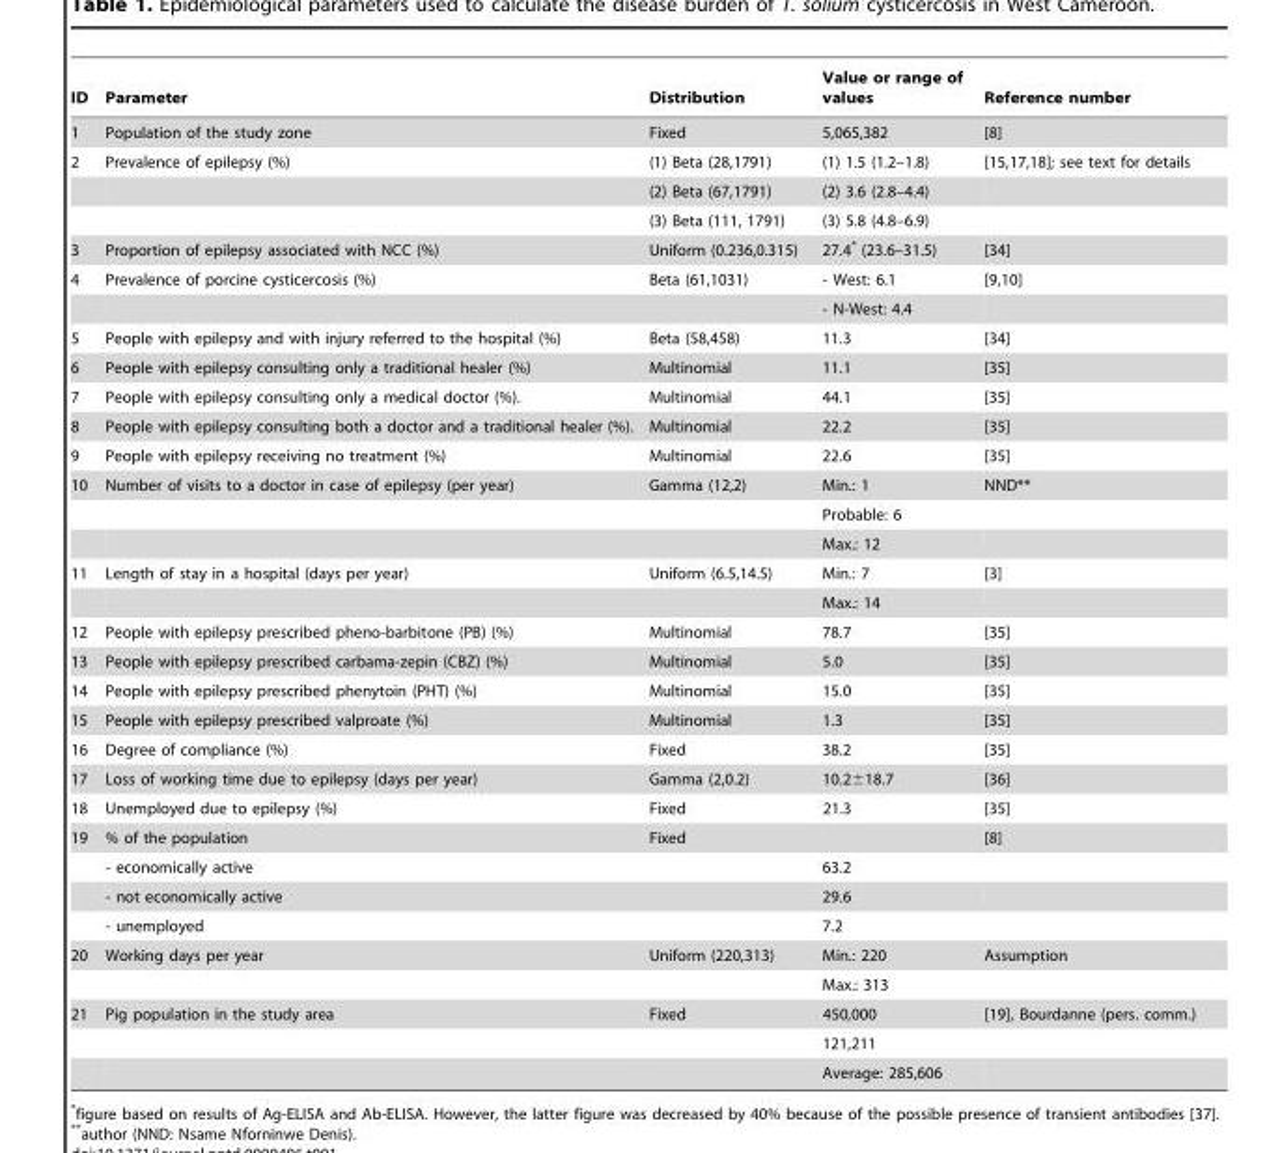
<table><thead><tr><td>ID</td><td>Parameter</td><td>Distribution</td><td>Value or range of values</td><td>Reference number</td></tr></thead><tbody><tr><td>1</td><td>Population of the study zone</td><td>Fixed</td><td>5,065,382</td><td>[8]</td></tr><tr><td rowspan="3">2</td><td>Prevalence of epilepsy (%)</td><td>(1) Beta (28,1791)</td><td>(1) 1.5 (1.2–1.8)</td><td>[15,17,18]; see text for details</td></tr><tr><td></td><td>(2) Beta (67,1791)</td><td>(2) 3.6 (2.8–4.4)</td><td></td></tr><tr><td></td><td>(3) Beta (111, 1791)</td><td>(3) 5.8 (4.8–6.9)</td><td></td></tr><tr><td>3</td><td>Proportion of epilepsy associated with NCC (%)</td><td>Uniform (0.236,0.315)</td><td>27.4* (23.6–31.5)</td><td>[34]</td></tr><tr><td rowspan="2">4</td><td>Prevalence of porcine cysticercosis (%)</td><td>Beta (61,1031)</td><td>- West: 6.1</td><td>[9,10]</td></tr><tr><td></td><td></td><td>- N-West: 4.4</td><td></td></tr><tr><td>5</td><td>People with epilepsy and with injury referred to the hospital (%)</td><td>Beta (58,458)</td><td>11.3</td><td>[34]</td></tr><tr><td>6</td><td>People with epilepsy consulting only a traditional healer (%)</td><td>Multinomial</td><td>11.1</td><td>[35]</td></tr><tr><td>7</td><td>People with epilepsy consulting only a medical doctor (%).</td><td>Multinomial</td><td>44.1</td><td>[35]</td></tr><tr><td>8</td><td>People with epilepsy consulting both a doctor and a traditional healer (%).</td><td>Multinomial</td><td>22.2</td><td>[35]</td></tr><tr><td>9</td><td>People with epilepsy receiving no treatment (%)</td><td>Multinomial</td><td>22.6</td><td>[35]</td></tr><tr><td rowspan="3">10</td><td>Number of visits to a doctor in case of epilepsy (per year)</td><td>Gamma (12,2)</td><td>Min.: 1</td><td>NND**</td></tr><tr><td></td><td></td><td>Probable: 6</td><td></td></tr><tr><td></td><td></td><td>Max.: 12</td><td></td></tr><tr><td rowspan="2">11</td><td>Length of stay in a hospital (days per year)</td><td>Uniform (6.5,14.5)</td><td>Min.: 7</td><td>[3]</td></tr><tr><td></td><td></td><td>Max.: 14</td><td></td></tr><tr><td>12</td><td>People with epilepsy prescribed pheno-barbitone (PB) (%)</td><td>Multinomial</td><td>78.7</td><td>[35]</td></tr><tr><td>13</td><td>People with epilepsy prescribed carbama-zepin (CBZ) (%)</td><td>Multinomial</td><td>5.0</td><td>[35]</td></tr><tr><td>14</td><td>People with epilepsy prescribed phenytoin (PHT) (%)</td><td>Multinomial</td><td>15.0</td><td>[35]</td></tr><tr><td>15</td><td>People with epilepsy prescribed valproate (%)</td><td>Multinomial</td><td>1.3</td><td>[35]</td></tr><tr><td>16</td><td>Degree of compliance (%)</td><td>Fixed</td><td>38.2</td><td>[35]</td></tr><tr><td>17</td><td>Loss of working time due to epilepsy (days per year)</td><td>Gamma (2,0.2)</td><td>10.2±18.7</td><td>[36]</td></tr><tr><td>18</td><td>Unemployed due to epilepsy (%)</td><td>Fixed</td><td>21.3</td><td>[35]</td></tr><tr><td rowspan="4">19</td><td>% of the population</td><td>Fixed</td><td></td><td>[8]</td></tr><tr><td>- economically active</td><td></td><td>63.2</td><td></td></tr><tr><td>- not economically active</td><td></td><td>29.6</td><td></td></tr><tr><td>- unemployed</td><td></td><td>7.2</td><td></td></tr><tr><td rowspan="2">20</td><td>Working days per year</td><td>Uniform (220,313)</td><td>Min.: 220</td><td>Assumption</td></tr><tr><td></td><td></td><td>Max.: 313</td><td></td></tr><tr><td rowspan="3">21</td><td>Pig population in the study area</td><td>Fixed</td><td>450,000</td><td>[19], Bourdanne (pers. comm.)</td></tr><tr><td></td><td></td><td>121,211</td><td></td></tr><tr><td></td><td></td><td>Average: 285,606</td><td></td></tr></tbody></table>